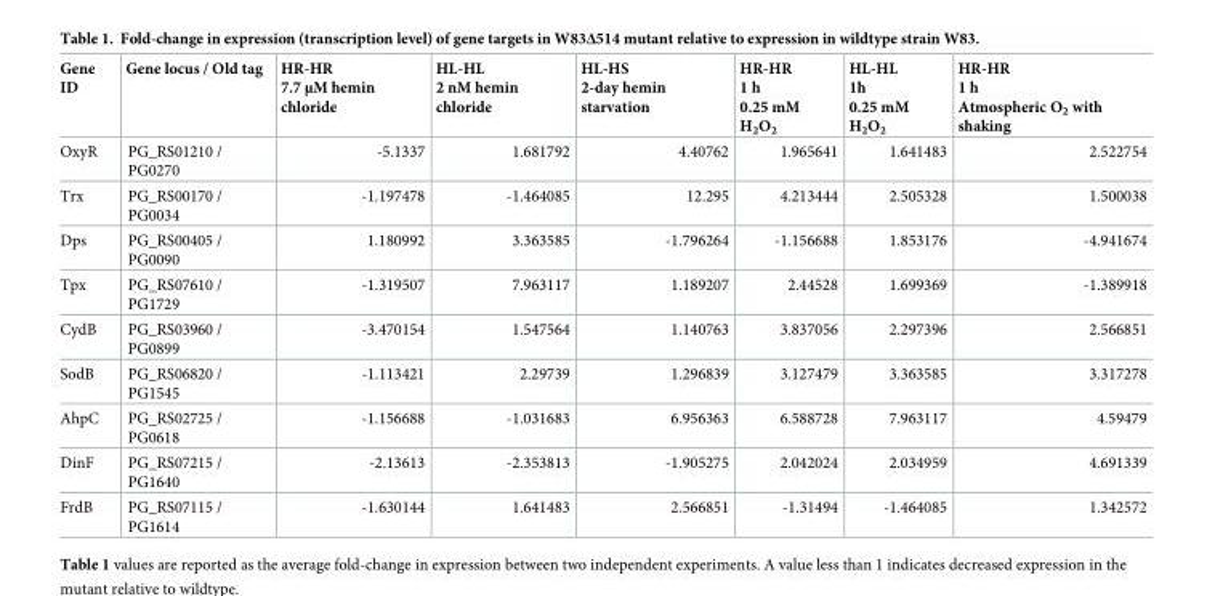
<table><thead><tr><td>Gene ID</td><td>Gene locus / Old tag</td><td>HR-HR 7.7 μM hemin chloride</td><td>HL-HL 2 nM hemin chloride</td><td>HL-HS 2-day hemin starvation</td><td>HR-HR 1 h 0.25 mM H<sub>2</sub>O<sub>2</sub></td><td>HL-HL 1h 0.25 mM H<sub>2</sub>O<sub>2</sub></td><td>HR-HR 1 h Atmospheric O<sub>2</sub> with shaking</td></tr></thead><tbody><tr><td>OxyR</td><td>PG_RS01210 / PG0270</td><td>-5.1337</td><td>1.681792</td><td>4.40762</td><td>1.965641</td><td>1.641483</td><td>2.522754</td></tr><tr><td>Trx</td><td>PG_RS00170 / PG0034</td><td>-1.197478</td><td>-1.464085</td><td>12.295</td><td>4.213444</td><td>2.505328</td><td>1.500038</td></tr><tr><td>Dps</td><td>PG_RS00405 / PG0090</td><td>1.180992</td><td>3.363585</td><td>-1.796264</td><td>-1.156688</td><td>1.853176</td><td>-4.941674</td></tr><tr><td>Tpx</td><td>PG_RS07610 / PG1729</td><td>-1.319507</td><td>7.963117</td><td>1.189207</td><td>2.44528</td><td>1.699369</td><td>-1.389918</td></tr><tr><td>CydB</td><td>PG_RS03960 / PG0899</td><td>-3.470154</td><td>1.547564</td><td>1.140763</td><td>3.837056</td><td>2.297396</td><td>2.566851</td></tr><tr><td>SodB</td><td>PG_RS06820 / PG1545</td><td>-1.113421</td><td>2.29739</td><td>1.296839</td><td>3.127479</td><td>3.363585</td><td>3.317278</td></tr><tr><td>AhpC</td><td>PG_RS02725 / PG0618</td><td>-1.156688</td><td>-1.031683</td><td>6.956363</td><td>6.588728</td><td>7.963117</td><td>4.59479</td></tr><tr><td>DinF</td><td>PG_RS07215 / PG1640</td><td>-2.13613</td><td>-2.353813</td><td>-1.905275</td><td>2.042024</td><td>2.034959</td><td>4.691339</td></tr><tr><td>FrdB</td><td>PG_RS07115 / PG1614</td><td>-1.630144</td><td>1.641483</td><td>2.566851</td><td>-1.31494</td><td>-1.464085</td><td>1.342572</td></tr></tbody></table>